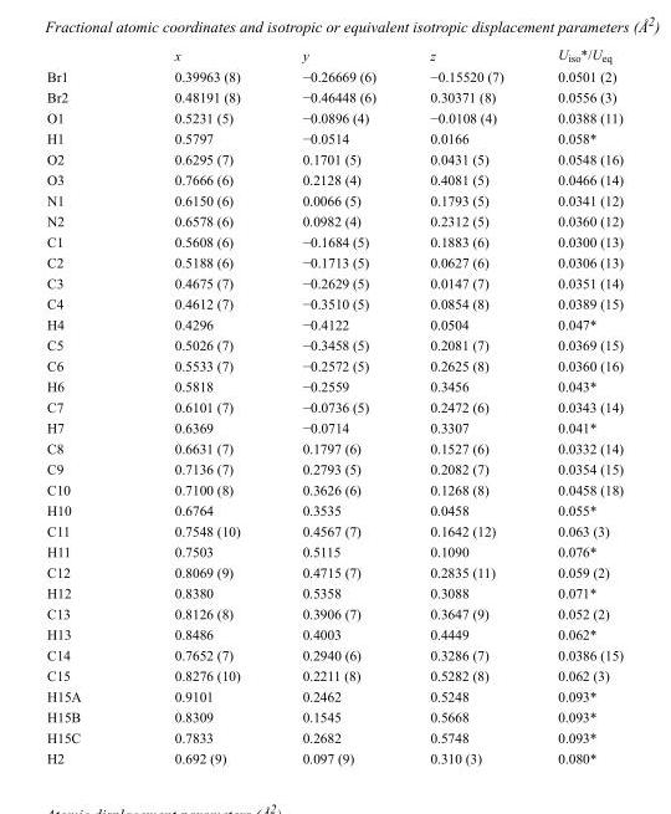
<table><thead><tr><td></td><td>x</td><td>y</td><td>z</td><td>U<sub>iso</sub>*/U<sub>eq</sub></td></tr></thead><tbody><tr><td>Br1</td><td>0.39963 (8)</td><td>−0.26669 (6)</td><td>−0.15520 (7)</td><td>0.0501 (2)</td></tr><tr><td>Br2</td><td>0.48191 (8)</td><td>−0.46448 (6)</td><td>0.30371 (8)</td><td>0.0556 (3)</td></tr><tr><td>O1</td><td>0.5231 (5)</td><td>−0.0896 (4)</td><td>−0.0108 (4)</td><td>0.0388 (11)</td></tr><tr><td>H1</td><td>0.5797</td><td>−0.0514</td><td>0.0166</td><td>0.058*</td></tr><tr><td>O2</td><td>0.6295 (7)</td><td>0.1701 (5)</td><td>0.0431 (5)</td><td>0.0548 (16)</td></tr><tr><td>O3</td><td>0.7666 (6)</td><td>0.2128 (4)</td><td>0.4081 (5)</td><td>0.0466 (14)</td></tr><tr><td>N1</td><td>0.6150 (6)</td><td>0.0066 (5)</td><td>0.1793 (5)</td><td>0.0341 (12)</td></tr><tr><td>N2</td><td>0.6578 (6)</td><td>0.0982 (4)</td><td>0.2312 (5)</td><td>0.0360 (12)</td></tr><tr><td>C1</td><td>0.5608 (6)</td><td>−0.1684 (5)</td><td>0.1883 (6)</td><td>0.0300 (13)</td></tr><tr><td>C2</td><td>0.5188 (6)</td><td>−0.1713 (5)</td><td>0.0627 (6)</td><td>0.0306 (13)</td></tr><tr><td>C3</td><td>0.4675 (7)</td><td>−0.2629 (5)</td><td>0.0147 (7)</td><td>0.0351 (14)</td></tr><tr><td>C4</td><td>0.4612 (7)</td><td>−0.3510 (5)</td><td>0.0854 (8)</td><td>0.0389 (15)</td></tr><tr><td>H4</td><td>0.4296</td><td>−0.4122</td><td>0.0504</td><td>0.047*</td></tr><tr><td>C5</td><td>0.5026 (7)</td><td>−0.3458 (5)</td><td>0.2081 (7)</td><td>0.0369 (15)</td></tr><tr><td>C6</td><td>0.5533 (7)</td><td>−0.2572 (5)</td><td>0.2625 (8)</td><td>0.0360 (16)</td></tr><tr><td>H6</td><td>0.5818</td><td>−0.2559</td><td>0.3456</td><td>0.043*</td></tr><tr><td>C7</td><td>0.6101 (7)</td><td>−0.0736 (5)</td><td>0.2472 (6)</td><td>0.0343 (14)</td></tr><tr><td>H7</td><td>0.6369</td><td>−0.0714</td><td>0.3307</td><td>0.041*</td></tr><tr><td>C8</td><td>0.6631 (7)</td><td>0.1797 (6)</td><td>0.1527 (6)</td><td>0.0332 (14)</td></tr><tr><td>C9</td><td>0.7136 (7)</td><td>0.2793 (5)</td><td>0.2082 (7)</td><td>0.0354 (15)</td></tr><tr><td>C10</td><td>0.7100 (8)</td><td>0.3626 (6)</td><td>0.1268 (8)</td><td>0.0458 (18)</td></tr><tr><td>H10</td><td>0.6764</td><td>0.3535</td><td>0.0458</td><td>0.055*</td></tr><tr><td>C11</td><td>0.7548 (10)</td><td>0.4567 (7)</td><td>0.1642 (12)</td><td>0.063 (3)</td></tr><tr><td>H11</td><td>0.7503</td><td>0.5115</td><td>0.1090</td><td>0.076*</td></tr><tr><td>C12</td><td>0.8069 (9)</td><td>0.4715 (7)</td><td>0.2835 (11)</td><td>0.059 (2)</td></tr><tr><td>H12</td><td>0.8380</td><td>0.5358</td><td>0.3088</td><td>0.071*</td></tr><tr><td>C13</td><td>0.8126 (8)</td><td>0.3906 (7)</td><td>0.3647 (9)</td><td>0.052 (2)</td></tr><tr><td>H13</td><td>0.8486</td><td>0.4003</td><td>0.4449</td><td>0.062*</td></tr><tr><td>C14</td><td>0.7652 (7)</td><td>0.2940 (6)</td><td>0.3286 (7)</td><td>0.0386 (15)</td></tr><tr><td>C15</td><td>0.8276 (10)</td><td>0.2211 (8)</td><td>0.5282 (8)</td><td>0.062 (3)</td></tr><tr><td>H15A</td><td>0.9101</td><td>0.2462</td><td>0.5248</td><td>0.093*</td></tr><tr><td>H15B</td><td>0.8309</td><td>0.1545</td><td>0.5668</td><td>0.093*</td></tr><tr><td>H15C</td><td>0.7833</td><td>0.2682</td><td>0.5748</td><td>0.093*</td></tr><tr><td>H2</td><td>0.692 (9)</td><td>0.097 (9)</td><td>0.310 (3)</td><td>0.080*</td></tr></tbody></table>